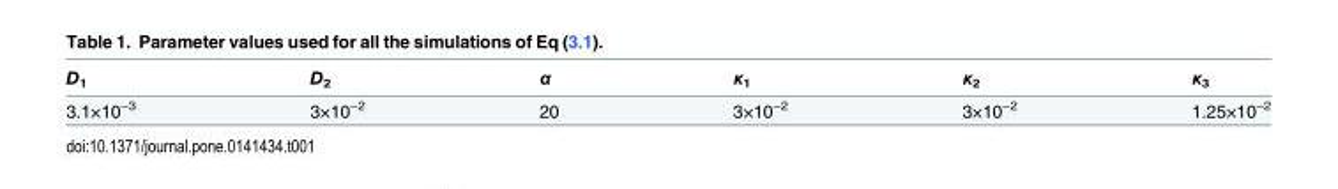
<table><thead><tr><td>D<sub>1</sub></td><td>D<sub>2</sub></td><td>α</td><td>κ<sub>1</sub></td><td>κ<sub>2</sub></td><td>κ<sub>3</sub></td></tr></thead><tbody><tr><td>3.1×10<sup>−3</sup></td><td>3×10<sup>−2</sup></td><td>20</td><td>3×10<sup>−2</sup></td><td>3×10<sup>−2</sup></td><td>1.25×10<sup>−2</sup></td></tr></tbody></table>